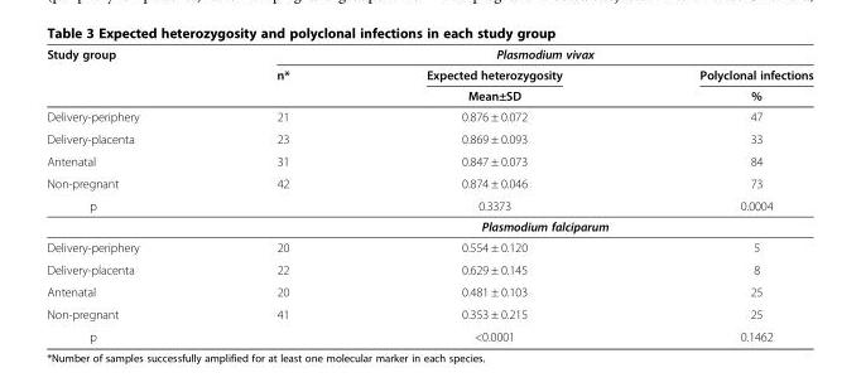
<table><thead><tr><td rowspan="3">Study group</td><td colspan="3">Plasmodium vivax</td></tr><tr><td rowspan="2">n*</td><td rowspan="2">Expected heterozygosity Mean±SD</td><td rowspan="2">Polyclonal infections %</td></tr><tr></tr></thead><tbody><tr><td>Delivery-periphery</td><td>21</td><td>0.876 ± 0.072</td><td>47</td></tr><tr><td>Delivery-placenta</td><td>23</td><td>0.869 ± 0.093</td><td>33</td></tr><tr><td>Antenatal</td><td>31</td><td>0.847 ± 0.073</td><td>84</td></tr><tr><td>Non-pregnant</td><td>42</td><td>0.874 ± 0.046</td><td>73</td></tr><tr><td rowspan="2">p</td><td></td><td>0.3373</td><td>0.0004</td></tr><tr><td colspan="3">Plasmodium falciparum</td></tr><tr><td>Delivery-periphery</td><td>20</td><td>0.554 ± 0.120</td><td>5</td></tr><tr><td>Delivery-placenta</td><td>22</td><td>0.629 ± 0.145</td><td>8</td></tr><tr><td>Antenatal</td><td>20</td><td>0.481 ± 0.103</td><td>25</td></tr><tr><td>Non-pregnant</td><td>41</td><td>0.353 ± 0.215</td><td>25</td></tr><tr><td>p</td><td></td><td>&lt;0.0001</td><td>0.1462</td></tr></tbody></table>